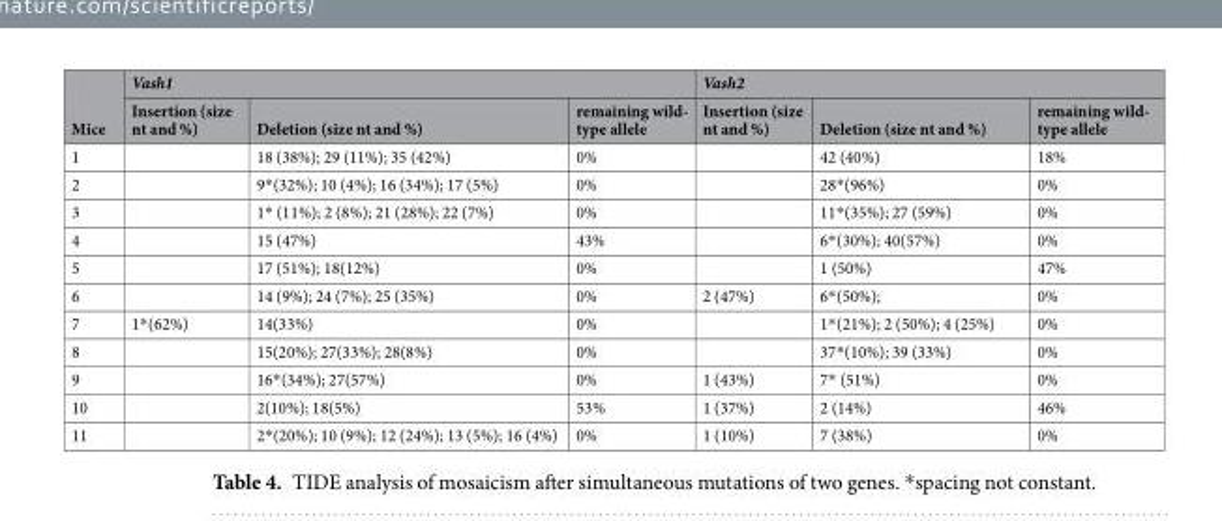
<table><thead><tr><td rowspan="2">Mice</td><td colspan="3">Vash1</td><td colspan="3">Vash2</td></tr><tr><td>Insertion (size nt and %)</td><td>Deletion (size nt and %)</td><td>remaining wild- type allele</td><td>Insertion (size nt and %)</td><td>Deletion (size nt and %)</td><td>remaining wild- type allele</td></tr></thead><tbody><tr><td>1</td><td></td><td>18 (38%); 29 (11%); 35 (42%)</td><td>0%</td><td></td><td>42 (40%)</td><td>18%</td></tr><tr><td>2</td><td></td><td>9*(32%); 10 (4%); 16 (34%); 17 (5%)</td><td>0%</td><td></td><td>28*(96%)</td><td>0%</td></tr><tr><td>3</td><td></td><td>1* (11%); 2 (8%); 21 (28%); 22 (7%)</td><td>0%</td><td></td><td>11*(35%); 27 (59%)</td><td>0%</td></tr><tr><td>4</td><td></td><td>15 (47%)</td><td>43%</td><td></td><td>6*(30%); 40(57%)</td><td>0%</td></tr><tr><td>5</td><td></td><td>17 (51%); 18(12%)</td><td>0%</td><td></td><td>1 (50%)</td><td>47%</td></tr><tr><td>6</td><td></td><td>14 (9%); 24 (7%); 25 (35%)</td><td>0%</td><td>2 (47%)</td><td>6*(50%);</td><td>0%</td></tr><tr><td>7</td><td>1*(62%)</td><td>14(33%)</td><td>0%</td><td></td><td>1*(21%); 2 (50%); 4 (25%)</td><td>0%</td></tr><tr><td>8</td><td></td><td>15(20%); 27(33%); 28(8%)</td><td>0%</td><td></td><td>37*(10%); 39 (33%)</td><td>0%</td></tr><tr><td>9</td><td></td><td>16*(34%); 27(57%)</td><td>0%</td><td>1 (43%)</td><td>7* (51%)</td><td>0%</td></tr><tr><td>10</td><td></td><td>2(10%); 18(5%)</td><td>53%</td><td>1 (37%)</td><td>2 (14%)</td><td>46%</td></tr><tr><td>11</td><td></td><td>2*(20%); 10 (9%); 12 (24%); 13 (5%); 16 (4%)</td><td>0%</td><td>1 (10%)</td><td>7 (38%)</td><td>0%</td></tr></tbody></table>